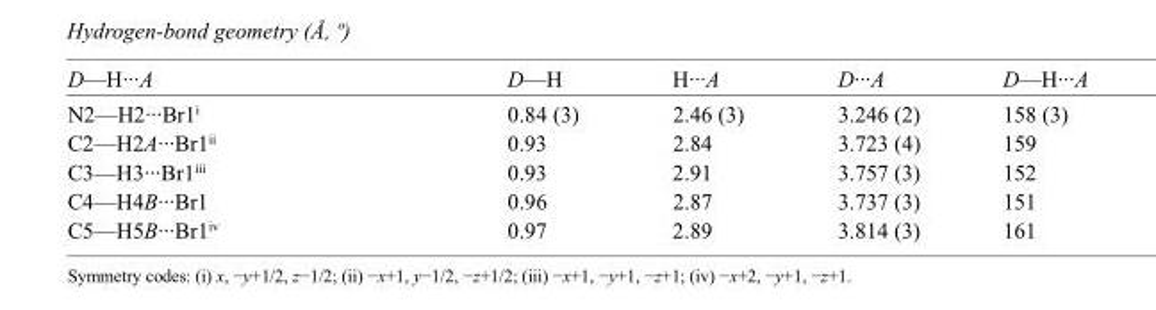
<table><tbody><tr><td>D—H···A</td><td>D—H</td><td>H···A</td><td>D···A</td><td>D—H···A</td></tr><tr><td>N2—H2···Br1<sup>i</sup></td><td>0.84 (3)</td><td>2.46 (3)</td><td>3.246 (2)</td><td>158 (3)</td></tr><tr><td>C2—H2A···Br1<sup>ii</sup></td><td>0.93</td><td>2.84</td><td>3.723 (4)</td><td>159</td></tr><tr><td>C3—H3···Br1<sup>iii</sup></td><td>0.93</td><td>2.91</td><td>3.757 (3)</td><td>152</td></tr><tr><td>C4—H4B···Br1</td><td>0.96</td><td>2.87</td><td>3.737 (3)</td><td>151</td></tr><tr><td>C5—H5B···Br1<sup>iv</sup></td><td>0.97</td><td>2.89</td><td>3.814 (3)</td><td>161</td></tr></tbody></table>